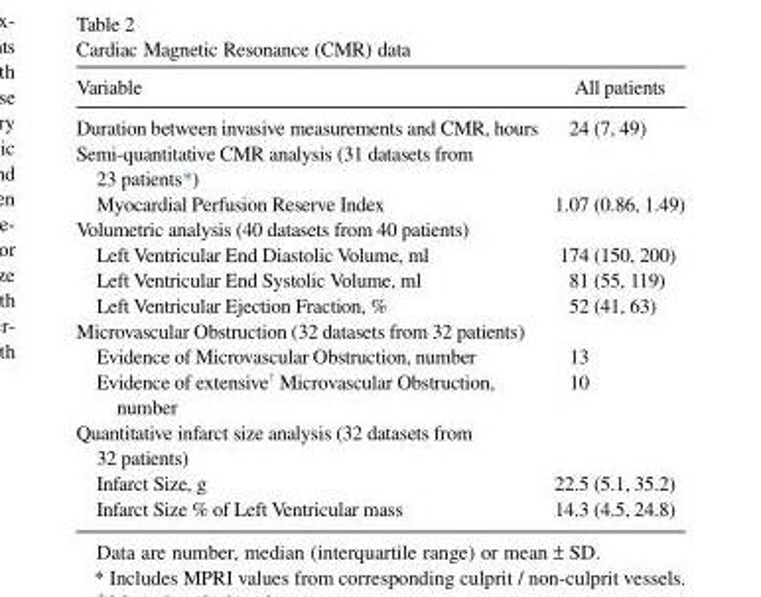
<table><thead><tr><td>Variable</td><td>All patients</td></tr></thead><tbody><tr><td>Duration between invasive measurements and CMR, hours</td><td>24 (7, 49)</td></tr><tr><td colspan="2">Semi-quantitative CMR analysis (31 datasets from 23 patients*)</td></tr><tr><td>Myocardial Perfusion Reserve Index</td><td>1.07 (0.86, 1.49)</td></tr><tr><td colspan="2">Volumetric analysis (40 datasets from 40 patients)</td></tr><tr><td>Left Ventricular End Diastolic Volume, ml</td><td>174 (150, 200)</td></tr><tr><td>Left Ventricular End Systolic Volume, ml</td><td>81 (55, 119)</td></tr><tr><td>Left Ventricular Ejection Fraction, %</td><td>52 (41, 63)</td></tr><tr><td colspan="2">Microvascular Obstruction (32 datasets from 32 patients)</td></tr><tr><td>Evidence of Microvascular Obstruction, number</td><td>13</td></tr><tr><td>Evidence of extensive† Microvascular Obstruction, number</td><td>10</td></tr><tr><td colspan="2">Quantitative infarct size analysis (32 datasets from 32 patients)</td></tr><tr><td>Infarct Size, g</td><td>22.5 (5.1, 35.2)</td></tr><tr><td>Infarct Size % of Left Ventricular mass</td><td>14.3 (4.5, 24.8)</td></tr></tbody></table>